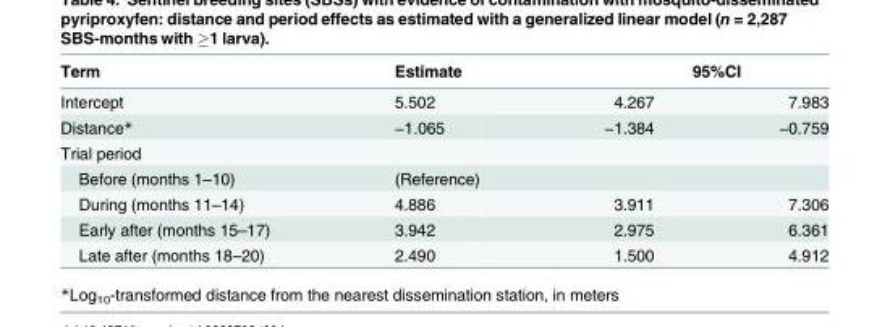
<table><thead><tr><td rowspan="2">Term Intercept</td><td rowspan="2">Estimate 5.502</td><td colspan="2">95%CI</td></tr><tr><td>4.267</td><td>7.983</td></tr></thead><tbody><tr><td>Distance*</td><td>−1.065</td><td>−1.384</td><td>−0.759</td></tr><tr><td colspan="4">Trial period</td></tr><tr><td>Before (months 1–10)</td><td>(Reference)</td><td></td><td></td></tr><tr><td>During (months 11–14)</td><td>4.886</td><td>3.911</td><td>7.306</td></tr><tr><td>Early after (months 15–17)</td><td>3.942</td><td>2.975</td><td>6.361</td></tr><tr><td>Late after (months 18–20)</td><td>2.490</td><td>1.500</td><td>4.912</td></tr></tbody></table>